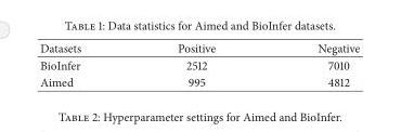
<table><thead><tr><td>Datasets</td><td>Positive</td><td>Negative</td></tr></thead><tbody><tr><td>BioInfer</td><td>2512</td><td>7010</td></tr><tr><td>Aimed</td><td>995</td><td>4812</td></tr></tbody></table>